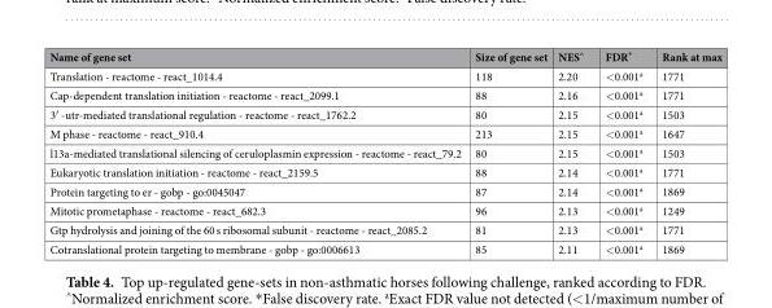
<table><thead><tr><td>Name of gene set</td><td>Size of gene set</td><td>NES<sup>^</sup></td><td>FDR*</td><td>Rank at max</td></tr></thead><tbody><tr><td>Translation - reactome - react_1014.4</td><td>118</td><td>2.20</td><td>&lt;0.001<sup>a</sup></td><td>1771</td></tr><tr><td>Cap-dependent translation initiation - reactome - react_2099.1</td><td>88</td><td>2.16</td><td>&lt;0.001<sup>a</sup></td><td>1771</td></tr><tr><td>3′ -utr-mediated translational regulation - reactome - react_1762.2</td><td>80</td><td>2.15</td><td>&lt;0.001<sup>a</sup></td><td>1503</td></tr><tr><td>M phase - reactome - react_910.4</td><td>213</td><td>2.15</td><td>&lt;0.001<sup>a</sup></td><td>1647</td></tr><tr><td>l13a-mediated translational silencing of ceruloplasmin expression - reactome - react_79.2</td><td>80</td><td>2.15</td><td>&lt;0.001<sup>a</sup></td><td>1503</td></tr><tr><td>Eukaryotic translation initiation - reactome - react_2159.5</td><td>88</td><td>2.14</td><td>&lt;0.001<sup>a</sup></td><td>1771</td></tr><tr><td>Protein targeting to er - gobp - go:0045047</td><td>87</td><td>2.14</td><td>&lt;0.001<sup>a</sup></td><td>1869</td></tr><tr><td>Mitotic prometaphase - reactome - react_682.3</td><td>96</td><td>2.13</td><td>&lt;0.001<sup>a</sup></td><td>1249</td></tr><tr><td>Gtp hydrolysis and joining of the 60 s ribosomal subunit - reactome - react_2085.2</td><td>81</td><td>2.13</td><td>&lt;0.001<sup>a</sup></td><td>1771</td></tr><tr><td>Cotranslational protein targeting to membrane - gobp - go:0006613</td><td>85</td><td>2.11</td><td>&lt;0.001<sup>a</sup></td><td>1869</td></tr></tbody></table>